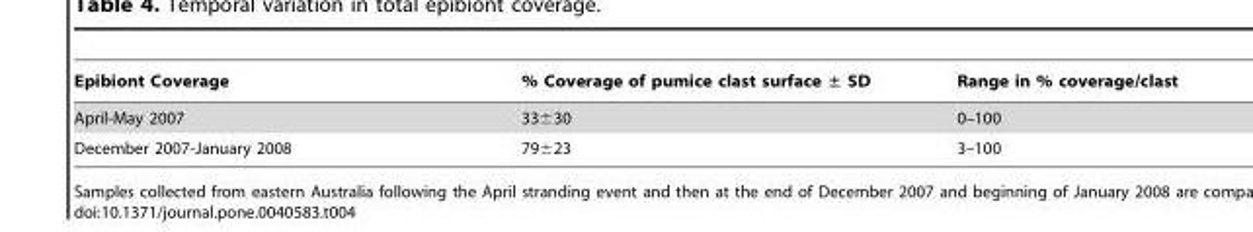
<table><thead><tr><td>Epibiont Coverage</td><td>% Coverage of pumice clast surface ± SD</td><td>Range in % coverage/clast</td></tr></thead><tbody><tr><td>April-May 2007</td><td>33±30</td><td>0–100</td></tr><tr><td>December 2007-January 2008</td><td>79±23</td><td>3–100</td></tr></tbody></table>